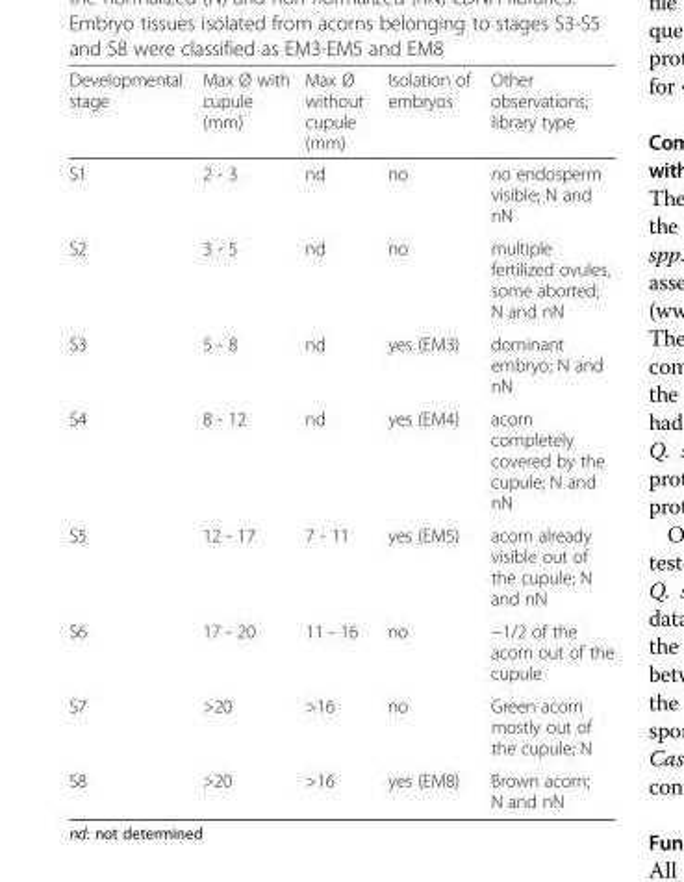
<table><thead><tr><td>Developmental stage</td><td>Max Ø with cupule (mm)</td><td>Max Ø without cupule (mm)</td><td>Isolation of embryos</td><td>Other observations; library type</td></tr></thead><tbody><tr><td>S1</td><td>2 - 3</td><td>nd</td><td>no</td><td>no endosperm visible; N and nN</td></tr><tr><td>S2</td><td>3 - 5</td><td>nd</td><td>no</td><td>multiple fertilized ovules, some aborted; N and nN</td></tr><tr><td>S3</td><td>5 - 8</td><td>nd</td><td>yes (EM3)</td><td>dominant embryo; N and nN</td></tr><tr><td>S4</td><td>8 - 12</td><td>nd</td><td>yes (EM4)</td><td>acorn completely covered by the cupule; N and nN</td></tr><tr><td>S5</td><td>12 - 17</td><td>7 - 11</td><td>yes (EM5)</td><td>acorn already visible out of the cupule; N and nN</td></tr><tr><td>S6</td><td>17 - 20</td><td>11 - 16</td><td>no</td><td>~1/2 of the acorn out of the cupule</td></tr><tr><td>S7</td><td>&gt;20</td><td>&gt;16</td><td>no</td><td>Green acorn mostly out of the cupule; N</td></tr><tr><td>S8</td><td>&gt;20</td><td>&gt;16</td><td>yes (EM8)</td><td>Brown acorn; N and nN</td></tr></tbody></table>